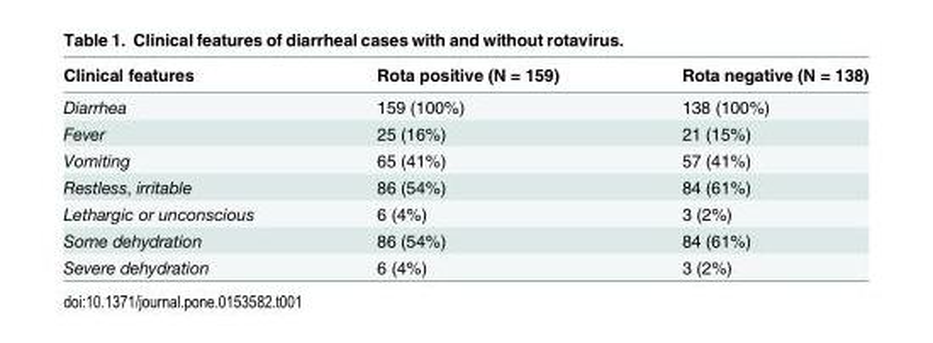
<table><thead><tr><td>Clinical features</td><td>Rota positive (N = 159)</td><td>Rota negative (N = 138)</td></tr></thead><tbody><tr><td>Diarrhea</td><td>159 (100%)</td><td>138 (100%)</td></tr><tr><td>Fever</td><td>25 (16%)</td><td>21 (15%)</td></tr><tr><td>Vomiting</td><td>65 (41%)</td><td>57 (41%)</td></tr><tr><td>Restless, irritable</td><td>86 (54%)</td><td>84 (61%)</td></tr><tr><td>Lethargic or unconscious</td><td>6 (4%)</td><td>3 (2%)</td></tr><tr><td>Some dehydration</td><td>86 (54%)</td><td>84 (61%)</td></tr><tr><td>Severe dehydration</td><td>6 (4%)</td><td>3 (2%)</td></tr></tbody></table>